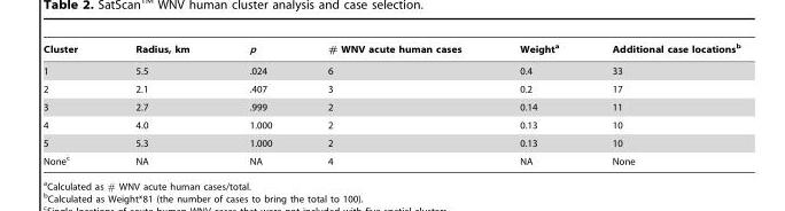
<table><thead><tr><td>Cluster</td><td>Radius, km</td><td>p</td><td># WNV acute human cases</td><td>Weight<sup>a</sup></td><td>Additional case locations<sup>b</sup></td></tr></thead><tbody><tr><td>1</td><td>5.5</td><td>.024</td><td>6</td><td>0.4</td><td>33</td></tr><tr><td>2</td><td>2.1</td><td>.407</td><td>3</td><td>0.2</td><td>17</td></tr><tr><td>3</td><td>2.7</td><td>.999</td><td>2</td><td>0.14</td><td>11</td></tr><tr><td>4</td><td>4.0</td><td>1.000</td><td>2</td><td>0.13</td><td>10</td></tr><tr><td>5</td><td>5.3</td><td>1.000</td><td>2</td><td>0.13</td><td>10</td></tr><tr><td>None<sup>c</sup></td><td>NA</td><td>NA</td><td>4</td><td>NA</td><td>None</td></tr></tbody></table>